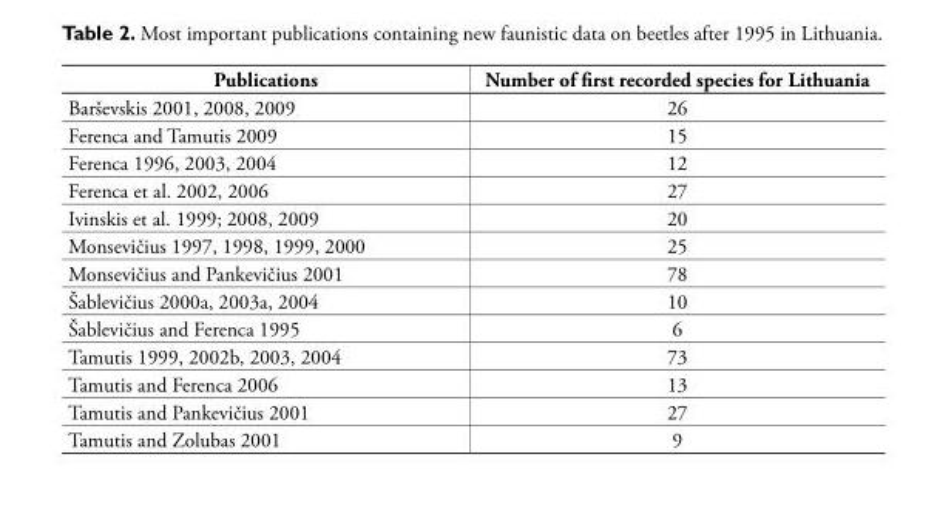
<table><thead><tr><td>Publications</td><td>Number of first recorded species for Lithuania</td></tr></thead><tbody><tr><td>Barševskis 2001, 2008, 2009</td><td>26</td></tr><tr><td>Ferenca and Tamutis 2009</td><td>15</td></tr><tr><td>Ferenca 1996, 2003, 2004</td><td>12</td></tr><tr><td>Ferenca et al. 2002, 2006</td><td>27</td></tr><tr><td>Ivinskis et al. 1999; 2008, 2009</td><td>20</td></tr><tr><td>Monsevičius 1997, 1998, 1999, 2000</td><td>25</td></tr><tr><td>Monsevičius and Pankevičius 2001</td><td>78</td></tr><tr><td>Šablevičius 2000a, 2003a, 2004</td><td>10</td></tr><tr><td>Šablevičius and Ferenca 1995</td><td>6</td></tr><tr><td>Tamutis 1999, 2002b, 2003, 2004</td><td>73</td></tr><tr><td>Tamutis and Ferenca 2006</td><td>13</td></tr><tr><td>Tamutis and Pankevičius 2001</td><td>27</td></tr><tr><td>Tamutis and Zolubas 2001</td><td>9</td></tr></tbody></table>